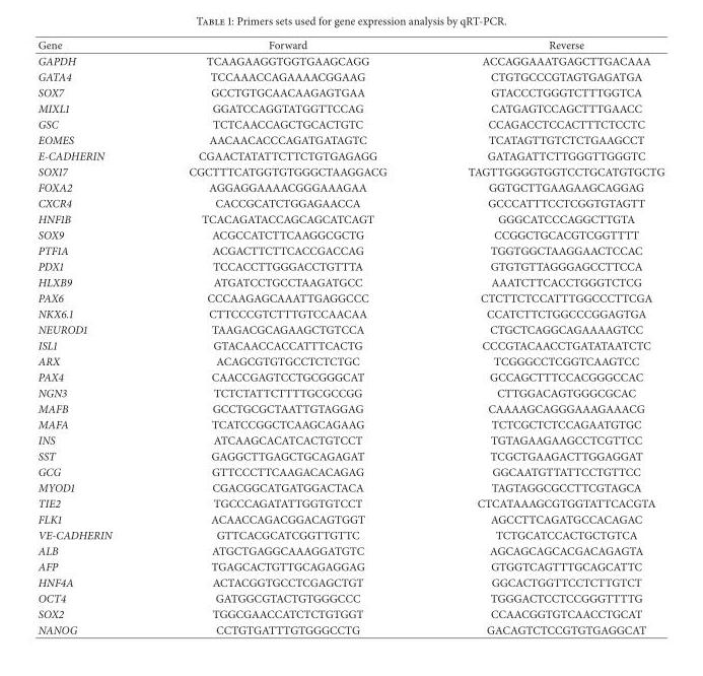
<table><thead><tr><td>Gene</td><td>Forward</td><td>Reverse</td></tr></thead><tbody><tr><td>GAPDH</td><td>TCAAGAAGGTGGTGAAGCAGG</td><td>ACCAGGAAATGAGCTTGACAAA</td></tr><tr><td>GATA4</td><td>TCCAAACCAGAAAACGGAAG</td><td>CTGTGCCCGTAGTGAGATGA</td></tr><tr><td>SOX7</td><td>GCCTGTGCAACAAGAGTGAA</td><td>GTACCCTGGGTCTTTGGTCA</td></tr><tr><td>MIXL1</td><td>GGATCCAGGTATGGTTCCAG</td><td>CATGAGTCCAGCTTTGAACC</td></tr><tr><td>GSC</td><td>TCTCAACCAGCTGCACTGTC</td><td>CCAGACCTCCACTTTCTCCTC</td></tr><tr><td>EOMES</td><td>AACAACACCCAGATGATAGTC</td><td>TCATAGTTGTCTCTGAAGCCT</td></tr><tr><td>E-CADHERIN</td><td>CGAACTATATTCTTCTGTGAGAGG</td><td>GATAGATTCTTGGGTTGGGTC</td></tr><tr><td>SOX17</td><td>CGCTTTCATGGTGTGGGCTAAGGACG</td><td>TAGTTGGGGTGGTCCTGCATGTGCTG</td></tr><tr><td>FOXA2</td><td>AGGAGGAAAACGGGAAAGAA</td><td>GGTGCTTGAAGAAGCAGGAG</td></tr><tr><td>CXCR4</td><td>CACCGCATCTGGAGAACCA</td><td>GCCCATTTCCTCGGTGTAGTT</td></tr><tr><td>HNF1B</td><td>TCACAGATACCAGCAGCATCAGT</td><td>GGGCATCCCAGGCTTGTA</td></tr><tr><td>SOX9</td><td>ACGCCATCTTCAAGGCGCTG</td><td>CCGGCTGCACGTCGGTTTT</td></tr><tr><td>PTF1A</td><td>ACGACTTCTTCACCGACCAG</td><td>TGGTGGCTAAGGAACTCCAC</td></tr><tr><td>PDX1</td><td>TCCACCTTGGGACCTGTTTA</td><td>GTGTGTTAGGGAGCCTTCCA</td></tr><tr><td>HLXB9</td><td>ATGATCCTGCCTAAGATGCC</td><td>AAATCTTCACCTGGGTCTCG</td></tr><tr><td>PAX6</td><td>CCCAAGAGCAAATTGAGGCCC</td><td>CTCTTCTCCATTTGGCCCTTCGA</td></tr><tr><td>NKX6.1</td><td>CTTCCCGTCTTTGTCCAACAA</td><td>CCATCTTCTGGCCCGGAGTGA</td></tr><tr><td>NEUROD1</td><td>TAAGACGCAGAAGCTGTCCA</td><td>CTGCTCAGGCAGAAAAGTCC</td></tr><tr><td>ISL1</td><td>GTACAACCACCATTTCACTG</td><td>CCCGTACAACCTGATATAATCTC</td></tr><tr><td>ARX</td><td>ACAGCGTGTGCCTCTCTGC</td><td>TCGGGCCTCGGTCAAGTCC</td></tr><tr><td>PAX4</td><td>CAACCGAGTCCTGCGGGCAT</td><td>GCCAGCTTTCCACGGGCCAC</td></tr><tr><td>NGN3</td><td>TCTCTATTCTTTTGCGCCGG</td><td>CTTGGACAGTGGGCGCAC</td></tr><tr><td>MAFB</td><td>GCCTGCGCTAATTGTAGGAG</td><td>CAAAAGCAGGGAAAGAAACG</td></tr><tr><td>MAFA</td><td>TCATCCGGCTCAAGCAGAAG</td><td>TCTCGCTCTCCAGAATGTGC</td></tr><tr><td>INS</td><td>ATCAAGCACATCACTGTCCT</td><td>TGTAGAAGAAGCCTCGTTCC</td></tr><tr><td>SST</td><td>GAGGCTTGAGCTGCAGAGAT</td><td>TCGCTGAAGACTTGGAGGAT</td></tr><tr><td>GCG</td><td>GTTCCCTTCAAGACACAGAG</td><td>GGCAATGTTATTCCTGTTCC</td></tr><tr><td>MYOD1</td><td>CGACGGCATGATGGACTACA</td><td>TAGTAGGCGCCTTCGTAGCA</td></tr><tr><td>TIE2</td><td>TGCCCAGATATTGGTGTCCT</td><td>CTCATAAAGCGTGGTATTCACGTA</td></tr><tr><td>FLK1</td><td>ACAACCAGACGGACAGTGGT</td><td>AGCCTTCAGATGCCACAGAC</td></tr><tr><td>VE-CADHERIN</td><td>GTTCACGCATCGGTTGTTC</td><td>TCTGCATCCACTGCTGTCA</td></tr><tr><td>ALB</td><td>ATGCTGAGGCAAAGGATGTC</td><td>AGCAGCAGCACGACAGAGTA</td></tr><tr><td>AFP</td><td>TGAGCACTGTTGCAGAGGAG</td><td>GTGGTCAGTTTGCAGCATTC</td></tr><tr><td>HNF4A</td><td>ACTACGGTGCCTCGAGCTGT</td><td>GGCACTGGTTCCTCTTGTCT</td></tr><tr><td>OCT4</td><td>GATGGCGTACTGTGGGCCC</td><td>TGGGACTCCTCCGGGTTTTG</td></tr><tr><td>SOX2</td><td>TGGCGAACCATCTCTGTGGT</td><td>CCAACGGTGTCAACCTGCAT</td></tr><tr><td>NANOG</td><td>CCTGTGATTTGTGGGCCTG</td><td>GACAGTCTCCGTGTGAGGCAT</td></tr></tbody></table>